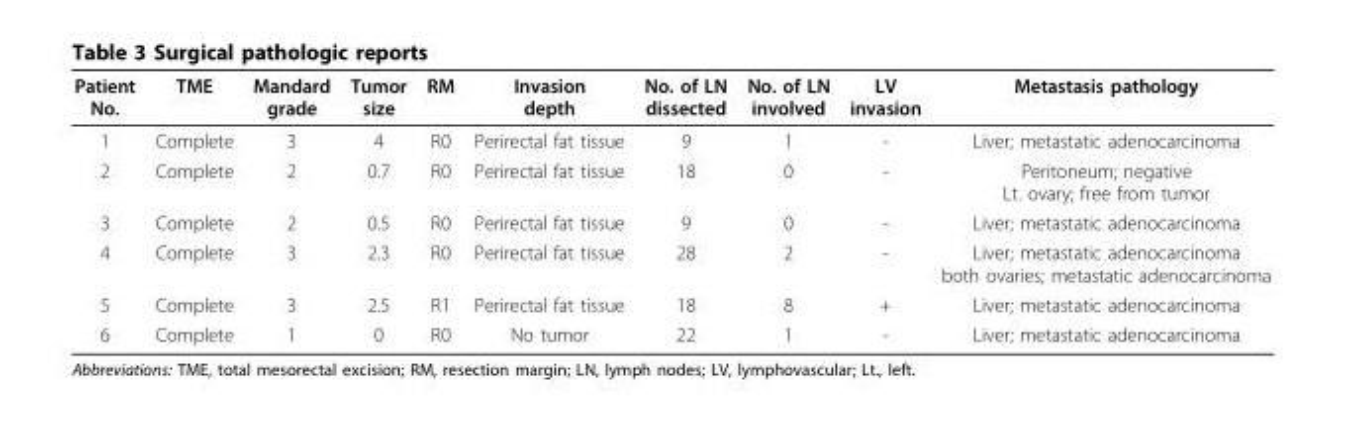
<table><thead><tr><td>Patient No.</td><td>TME</td><td>Mandard grade</td><td>Tumor size</td><td>RM</td><td>Invasion depth</td><td>No. of LN dissected</td><td>No. of LN involved</td><td>LV invasion</td><td>Metastasis pathology</td></tr></thead><tbody><tr><td>1</td><td>Complete</td><td>3</td><td>4</td><td>R0</td><td>Perirectal fat tissue</td><td>9</td><td>1</td><td>-</td><td>Liver; metastatic adenocarcinoma</td></tr><tr><td>2</td><td>Complete</td><td>2</td><td>0.7</td><td>R0</td><td>Perirectal fat tissue</td><td>18</td><td>0</td><td>-</td><td>Peritoneum; negative Lt. ovary; free from tumor</td></tr><tr><td>3</td><td>Complete</td><td>2</td><td>0.5</td><td>R0</td><td>Perirectal fat tissue</td><td>9</td><td>0</td><td>-</td><td>Liver; metastatic adenocarcinoma</td></tr><tr><td>4</td><td>Complete</td><td>3</td><td>2.3</td><td>R0</td><td>Perirectal fat tissue</td><td>28</td><td>2</td><td>-</td><td>Liver; metastatic adenocarcinoma both ovaries; metastatic adenocarcinoma</td></tr><tr><td>5</td><td>Complete</td><td>3</td><td>2.5</td><td>R1</td><td>Perirectal fat tissue</td><td>18</td><td>8</td><td>+</td><td>Liver; metastatic adenocarcinoma</td></tr><tr><td>6</td><td>Complete</td><td>1</td><td>0</td><td>R0</td><td>No tumor</td><td>22</td><td>1</td><td>-</td><td>Liver; metastatic adenocarcinoma</td></tr></tbody></table>